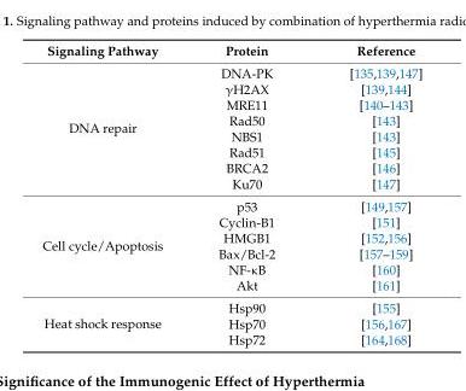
<table><thead><tr><td>Signaling Pathway</td><td>Protein</td><td>Reference</td></tr></thead><tbody><tr><td rowspan="8">DNA repair</td><td>DNA-PK</td><td>[135,139,147]</td></tr><tr><td>γH2AX</td><td>[139,144]</td></tr><tr><td>MRE11</td><td>[140–143]</td></tr><tr><td>Rad50</td><td>[143]</td></tr><tr><td>NBS1</td><td>[143]</td></tr><tr><td>Rad51</td><td>[145]</td></tr><tr><td>BRCA2</td><td>[146]</td></tr><tr><td>Ku70</td><td>[147]</td></tr><tr><td rowspan="6">Cell cycle/Apoptosis</td><td>p53</td><td>[149,157]</td></tr><tr><td>Cyclin-B1</td><td>[151]</td></tr><tr><td>HMGB1</td><td>[152,156]</td></tr><tr><td>Bax/Bcl-2</td><td>[157–159]</td></tr><tr><td>NF-κB</td><td>[160]</td></tr><tr><td>Akt</td><td>[161]</td></tr><tr><td rowspan="3">Heat shock response</td><td>Hsp90</td><td>[155]</td></tr><tr><td>Hsp70</td><td>[156,167]</td></tr><tr><td>Hsp72</td><td>[164,168]</td></tr></tbody></table>